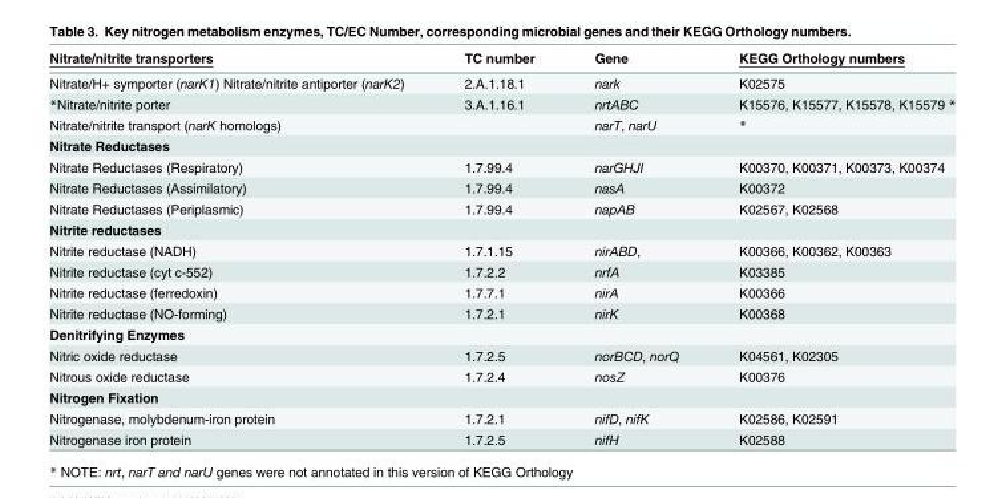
<table><thead><tr><td>Nitrate/nitrite transporters</td><td>TC number</td><td>Gene</td><td>KEGG Orthology numbers</td></tr></thead><tbody><tr><td>Nitrate/H+ symporter (narK1) Nitrate/nitrite antiporter (narK2)</td><td>2.A.1.18.1</td><td>nark</td><td>K02575</td></tr><tr><td>*Nitrate/nitrite porter</td><td>3.A.1.16.1</td><td>nrtABC</td><td>K15576, K15577, K15578, K15579 *</td></tr><tr><td>Nitrate/nitrite transport (narK homologs)</td><td></td><td>narT, narU</td><td>*</td></tr><tr><td colspan="4">Nitrate Reductases</td></tr><tr><td>Nitrate Reductases (Respiratory)</td><td>1.7.99.4</td><td>narGHJI</td><td>K00370, K00371, K00373, K00374</td></tr><tr><td>Nitrate Reductases (Assimilatory)</td><td>1.7.99.4</td><td>nasA</td><td>K00372</td></tr><tr><td>Nitrate Reductases (Periplasmic)</td><td>1.7.99.4</td><td>napAB</td><td>K02567, K02568</td></tr><tr><td colspan="4">Nitrite reductases</td></tr><tr><td>Nitrite reductase (NADH)</td><td>1.7.1.15</td><td>nirABD,</td><td>K00366, K00362, K00363</td></tr><tr><td>Nitrite reductase (cyt c-552)</td><td>1.7.2.2</td><td>nrfA</td><td>K03385</td></tr><tr><td>Nitrite reductase (ferredoxin)</td><td>1.7.7.1</td><td>nirA</td><td>K00366</td></tr><tr><td>Nitrite reductase (NO-forming)</td><td>1.7.2.1</td><td>nirK</td><td>K00368</td></tr><tr><td colspan="4">Denitrifying Enzymes</td></tr><tr><td>Nitric oxide reductase</td><td>1.7.2.5</td><td>norBCD, norQ</td><td>K04561, K02305</td></tr><tr><td>Nitrous oxide reductase</td><td>1.7.2.4</td><td>nosZ</td><td>K00376</td></tr><tr><td colspan="4">Nitrogen Fixation</td></tr><tr><td>Nitrogenase, molybdenum-iron protein</td><td>1.7.2.1</td><td>nifD, nifK</td><td>K02586, K02591</td></tr><tr><td>Nitrogenase iron protein</td><td>1.7.2.5</td><td>nifH</td><td>K02588</td></tr></tbody></table>